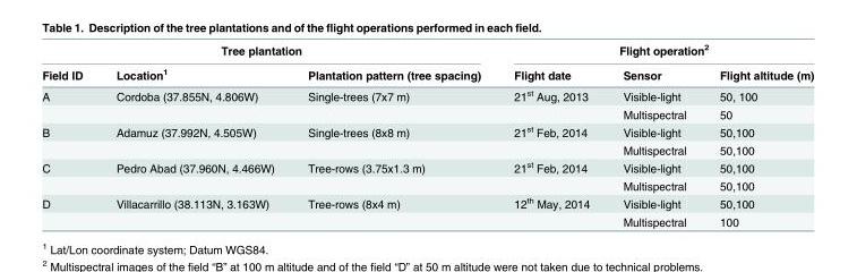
<table><thead><tr><td colspan="3">Tree plantation</td><td colspan="3">Flight operation<sup>2</sup></td></tr><tr><td>Field ID</td><td>Location<sup>1</sup></td><td>Plantation pattern (tree spacing)</td><td>Flight date</td><td>Sensor</td><td>Flight altitude (m)</td></tr></thead><tbody><tr><td rowspan="2">A</td><td>Cordoba (37.855N, 4.806W)</td><td>Single-trees (7x7 m)</td><td>21<sup>st</sup> Aug, 2013</td><td>Visible-light</td><td>50, 100</td></tr><tr><td></td><td></td><td></td><td>Multispectral</td><td>50</td></tr><tr><td rowspan="2">B</td><td>Adamuz (37.992N, 4.505W)</td><td>Single-trees (8x8 m)</td><td>21<sup>st</sup> Feb, 2014</td><td>Visible-light</td><td>50,100</td></tr><tr><td></td><td></td><td></td><td>Multispectral</td><td>50,100</td></tr><tr><td rowspan="2">C</td><td>Pedro Abad (37.960N, 4.466W)</td><td>Tree-rows (3.75x1.3 m)</td><td>21<sup>st</sup> Feb, 2014</td><td>Visible-light</td><td>50,100</td></tr><tr><td></td><td></td><td></td><td>Multispectral</td><td>50,100</td></tr><tr><td rowspan="2">D</td><td>Villacarrillo (38.113N, 3.163W)</td><td>Tree-rows (8x4 m)</td><td>12<sup>th</sup> May, 2014</td><td>Visible-light</td><td>50,100</td></tr><tr><td></td><td></td><td></td><td>Multispectral</td><td>100</td></tr></tbody></table>